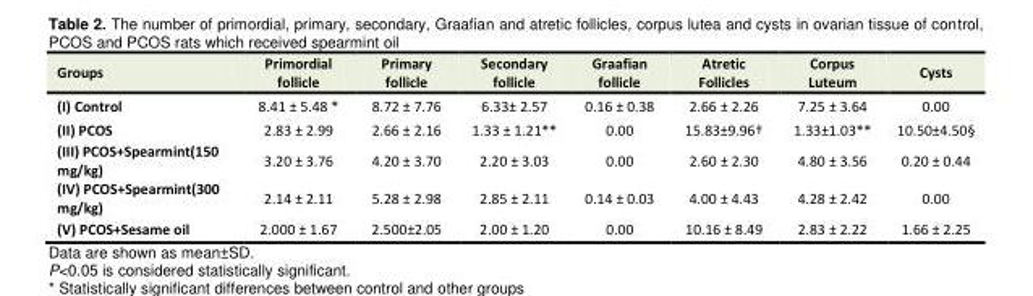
<table><tbody><tr><td>Groups</td><td>Primordial follicle</td><td>Primary follicle</td><td>Secondary follicle</td><td>Graafian follicle</td><td>Atretic Follicles</td><td>Corpus Luteum</td><td>Cysts</td></tr><tr><td>(I) Control</td><td>8.41 ± 5.48 *</td><td>8.72 ± 7.76</td><td>6.33± 2.57</td><td>0.16 ± 0.38</td><td>2.66 ± 2.26</td><td>7.25 ± 3.64</td><td>0.00</td></tr><tr><td>(II) PCOS</td><td>2.83 ± 2.99</td><td>2.66 ± 2.16</td><td>1.33 ± 1.21**</td><td>0.00</td><td>15.83±9.96†</td><td>1.33±1.03**</td><td>10.50±4.50§</td></tr><tr><td>(III) PCOS+Spearmint(150 mg/kg)</td><td>3.20 ± 3.76</td><td>4.20 ± 3.70</td><td>2.20 ± 3.03</td><td>0.00</td><td>2.60 ± 2.30</td><td>4.80 ± 3.56</td><td>0.20 ± 0.44</td></tr><tr><td>(IV) PCOS+Spearmint(300 mg/kg)</td><td>2.14 ± 2.11</td><td>5.28 ± 2.98</td><td>2.85 ± 2.11</td><td>0.14 ± 0.03</td><td>4.00 ± 4.43</td><td>4.28 ± 2.42</td><td>0.00</td></tr><tr><td>(V) PCOS+Sesame oil</td><td>2.000 ± 1.67</td><td>2.500±2.05</td><td>2.00 ± 1.20</td><td>0.00</td><td>10.16 ± 8.49</td><td>2.83 ± 2.22</td><td>1.66 ± 2.25</td></tr></tbody></table>